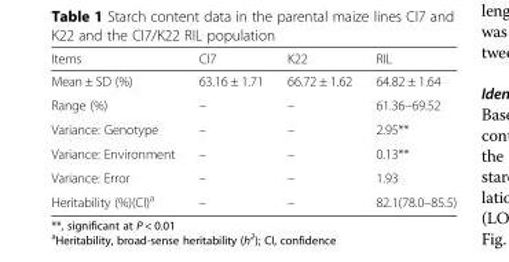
<table><thead><tr><td>Items</td><td>CI7</td><td>K22</td><td>RIL</td></tr></thead><tbody><tr><td>Mean ± SD (%)</td><td>63.16 ± 1.71</td><td>66.72 ± 1.62</td><td>64.82 ± 1.64</td></tr><tr><td>Range (%)</td><td>–</td><td>–</td><td>61.36–69.52</td></tr><tr><td>Variance: Genotype</td><td>–</td><td>–</td><td>2.95**</td></tr><tr><td>Variance: Environment</td><td>–</td><td>–</td><td>0.13**</td></tr><tr><td>Variance: Error</td><td>–</td><td>–</td><td>1.93</td></tr><tr><td>Heritability (%)(CI)<sup>a</sup></td><td>–</td><td>–</td><td>82.1(78.0–85.5)</td></tr></tbody></table>